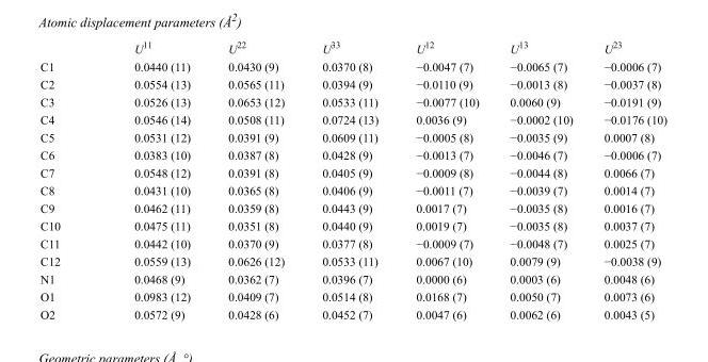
<table><thead><tr><td></td><td>U<sup>11</sup></td><td>U<sup>22</sup></td><td>U<sup>33</sup></td><td>U<sup>12</sup></td><td>U<sup>13</sup></td><td>U<sup>23</sup></td></tr></thead><tbody><tr><td>C1</td><td>0.0440 (11)</td><td>0.0430 (9)</td><td>0.0370 (8)</td><td>−0.0047 (7)</td><td>−0.0065 (7)</td><td>−0.0006 (7)</td></tr><tr><td>C2</td><td>0.0554 (13)</td><td>0.0565 (11)</td><td>0.0394 (9)</td><td>−0.0110 (9)</td><td>−0.0013 (8)</td><td>−0.0037 (8)</td></tr><tr><td>C3</td><td>0.0526 (13)</td><td>0.0653 (12)</td><td>0.0533 (11)</td><td>−0.0077 (10)</td><td>0.0060 (9)</td><td>−0.0191 (9)</td></tr><tr><td>C4</td><td>0.0546 (14)</td><td>0.0508 (11)</td><td>0.0724 (13)</td><td>0.0036 (9)</td><td>−0.0002 (10)</td><td>−0.0176 (10)</td></tr><tr><td>C5</td><td>0.0531 (12)</td><td>0.0391 (9)</td><td>0.0609 (11)</td><td>−0.0005 (8)</td><td>−0.0035 (9)</td><td>0.0007 (8)</td></tr><tr><td>C6</td><td>0.0383 (10)</td><td>0.0387 (8)</td><td>0.0428 (9)</td><td>−0.0013 (7)</td><td>−0.0046 (7)</td><td>−0.0006 (7)</td></tr><tr><td>C7</td><td>0.0548 (12)</td><td>0.0391 (8)</td><td>0.0405 (9)</td><td>−0.0009 (8)</td><td>−0.0044 (8)</td><td>0.0066 (7)</td></tr><tr><td>C8</td><td>0.0431 (10)</td><td>0.0365 (8)</td><td>0.0406 (9)</td><td>−0.0011 (7)</td><td>−0.0039 (7)</td><td>0.0014 (7)</td></tr><tr><td>C9</td><td>0.0462 (11)</td><td>0.0359 (8)</td><td>0.0443 (9)</td><td>0.0017 (7)</td><td>−0.0035 (8)</td><td>0.0016 (7)</td></tr><tr><td>C10</td><td>0.0475 (11)</td><td>0.0351 (8)</td><td>0.0440 (9)</td><td>0.0019 (7)</td><td>−0.0035 (8)</td><td>0.0037 (7)</td></tr><tr><td>C11</td><td>0.0442 (10)</td><td>0.0370 (9)</td><td>0.0377 (8)</td><td>−0.0009 (7)</td><td>−0.0048 (7)</td><td>0.0025 (7)</td></tr><tr><td>C12</td><td>0.0559 (13)</td><td>0.0626 (12)</td><td>0.0533 (11)</td><td>0.0067 (10)</td><td>0.0079 (9)</td><td>−0.0038 (9)</td></tr><tr><td>N1</td><td>0.0468 (9)</td><td>0.0362 (7)</td><td>0.0396 (7)</td><td>0.0000 (6)</td><td>0.0003 (6)</td><td>0.0048 (6)</td></tr><tr><td>O1</td><td>0.0983 (12)</td><td>0.0409 (7)</td><td>0.0514 (8)</td><td>0.0168 (7)</td><td>0.0050 (7)</td><td>0.0073 (6)</td></tr><tr><td>O2</td><td>0.0572 (9)</td><td>0.0428 (6)</td><td>0.0452 (7)</td><td>0.0047 (6)</td><td>0.0062 (6)</td><td>0.0043 (5)</td></tr></tbody></table>